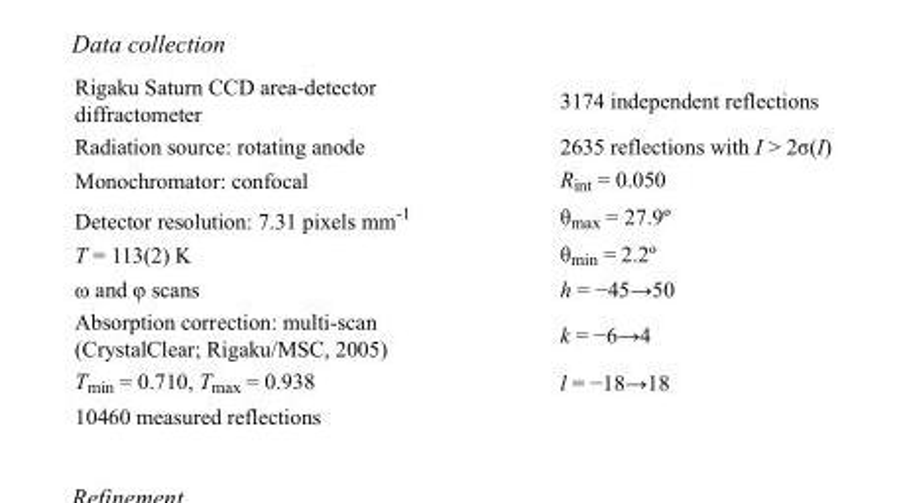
<table><tbody><tr><td>Rigaku Saturn CCD area-detector diffractometer</td><td>3174 independent reflections</td></tr><tr><td>Radiation source: rotating anode</td><td>2635 reflections with I &gt; 2σ(I)</td></tr><tr><td>Monochromator: confocal</td><td>R<sub>int</sub> = 0.050</td></tr><tr><td>Detector resolution: 7.31 pixels mm<sup>-1</sup></td><td>θ<sub>max</sub> = 27.9º</td></tr><tr><td>T = 113(2) K</td><td>θ<sub>min</sub> = 2.2º</td></tr><tr><td>ω and φ scans</td><td>h = −45→50</td></tr><tr><td>Absorption correction: multi-scan (CrystalClear; Rigaku/MSC, 2005)</td><td>k = −6→4</td></tr><tr><td>T<sub>min</sub> = 0.710, T<sub>max</sub> = 0.938</td><td>l = −18→18</td></tr><tr><td>10460 measured reflections</td><td></td></tr></tbody></table>